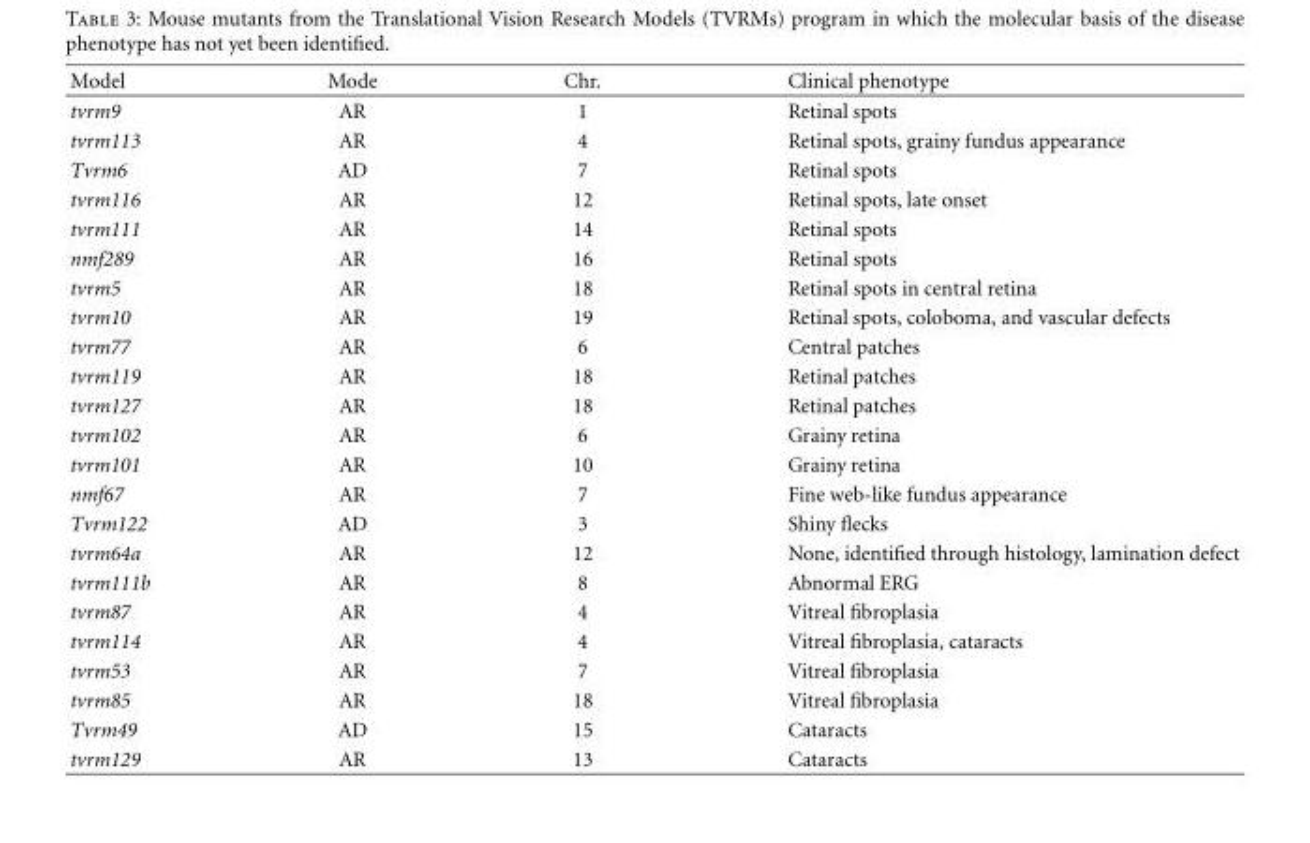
<table><thead><tr><td>Model</td><td>Mode</td><td>Chr.</td><td>Clinical phenotype</td></tr></thead><tbody><tr><td>tvrm9</td><td>AR</td><td>1</td><td>Retinal spots</td></tr><tr><td>tvrm113</td><td>AR</td><td>4</td><td>Retinal spots, grainy fundus appearance</td></tr><tr><td>Tvrm6</td><td>AD</td><td>7</td><td>Retinal spots</td></tr><tr><td>tvrm116</td><td>AR</td><td>12</td><td>Retinal spots, late onset</td></tr><tr><td>tvrm111</td><td>AR</td><td>14</td><td>Retinal spots</td></tr><tr><td>nmf289</td><td>AR</td><td>16</td><td>Retinal spots</td></tr><tr><td>tvrm5</td><td>AR</td><td>18</td><td>Retinal spots in central retina</td></tr><tr><td>tvrm10</td><td>AR</td><td>19</td><td>Retinal spots, coloboma, and vascular defects</td></tr><tr><td>tvrm77</td><td>AR</td><td>6</td><td>Central patches</td></tr><tr><td>tvrm119</td><td>AR</td><td>18</td><td>Retinal patches</td></tr><tr><td>tvrm127</td><td>AR</td><td>18</td><td>Retinal patches</td></tr><tr><td>tvrm102</td><td>AR</td><td>6</td><td>Grainy retina</td></tr><tr><td>tvrm101</td><td>AR</td><td>10</td><td>Grainy retina</td></tr><tr><td>nmf67</td><td>AR</td><td>7</td><td>Fine web-like fundus appearance</td></tr><tr><td>Tvrm122</td><td>AD</td><td>3</td><td>Shiny flecks</td></tr><tr><td>tvrm64a</td><td>AR</td><td>12</td><td>None, identified through histology, lamination defect</td></tr><tr><td>tvrm111b</td><td>AR</td><td>8</td><td>Abnormal ERG</td></tr><tr><td>tvrm87</td><td>AR</td><td>4</td><td>Vitreal fibroplasia</td></tr><tr><td>tvrm114</td><td>AR</td><td>4</td><td>Vitreal fibroplasia, cataracts</td></tr><tr><td>tvrm53</td><td>AR</td><td>7</td><td>Vitreal fibroplasia</td></tr><tr><td>tvrm85</td><td>AR</td><td>18</td><td>Vitreal fibroplasia</td></tr><tr><td>Tvrm49</td><td>AD</td><td>15</td><td>Cataracts</td></tr><tr><td>tvrm129</td><td>AR</td><td>13</td><td>Cataracts</td></tr></tbody></table>